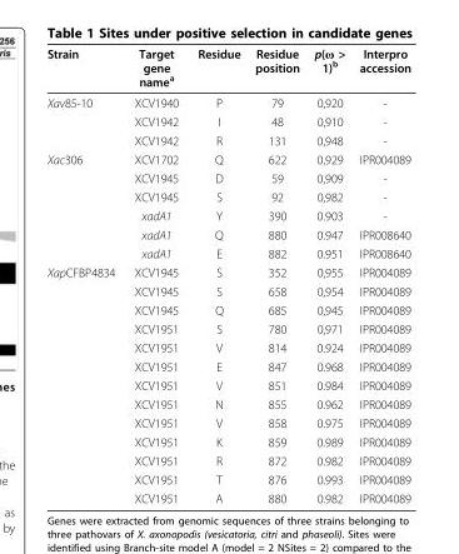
<table><thead><tr><td>Strain</td><td>Target gene name<sup>a</sup></td><td>Residue</td><td>Residue position</td><td>p(ω &gt; 1)<sup>b</sup></td><td>Interpro accession</td></tr></thead><tbody><tr><td rowspan="3">Xav85-10</td><td>XCV1940</td><td>P</td><td>79</td><td>0,920</td><td>-</td></tr><tr><td>XCV1942</td><td>I</td><td>48</td><td>0,910</td><td>-</td></tr><tr><td>XCV1942</td><td>R</td><td>131</td><td>0,948</td><td>-</td></tr><tr><td rowspan="6">Xac306</td><td>XCV1702</td><td>Q</td><td>622</td><td>0,929</td><td>IPR004089</td></tr><tr><td>XCV1945</td><td>D</td><td>59</td><td>0,909</td><td>-</td></tr><tr><td>XCV1945</td><td>S</td><td>92</td><td>0,982</td><td>-</td></tr><tr><td>xadA1</td><td>Y</td><td>390</td><td>0.903</td><td>-</td></tr><tr><td>xadA1</td><td>Q</td><td>880</td><td>0.947</td><td>IPR008640</td></tr><tr><td>xadA1</td><td>E</td><td>882</td><td>0.951</td><td>IPR008640</td></tr><tr><td rowspan="13">XapCFBP4834</td><td>XCV1945</td><td>S</td><td>352</td><td>0,955</td><td>IPR004089</td></tr><tr><td>XCV1945</td><td>S</td><td>658</td><td>0,954</td><td>IPR004089</td></tr><tr><td>XCV1945</td><td>Q</td><td>685</td><td>0,945</td><td>IPR004089</td></tr><tr><td>XCV1951</td><td>S</td><td>780</td><td>0,971</td><td>IPR004089</td></tr><tr><td>XCV1951</td><td>V</td><td>814</td><td>0.924</td><td>IPR004089</td></tr><tr><td>XCV1951</td><td>E</td><td>847</td><td>0.968</td><td>IPR004089</td></tr><tr><td>XCV1951</td><td>V</td><td>851</td><td>0.984</td><td>IPR004089</td></tr><tr><td>XCV1951</td><td>N</td><td>855</td><td>0.962</td><td>IPR004089</td></tr><tr><td>XCV1951</td><td>V</td><td>858</td><td>0.975</td><td>IPR004089</td></tr><tr><td>XCV1951</td><td>K</td><td>859</td><td>0.989</td><td>IPR004089</td></tr><tr><td>XCV1951</td><td>R</td><td>872</td><td>0.982</td><td>IPR004089</td></tr><tr><td>XCV1951</td><td>T</td><td>876</td><td>0.993</td><td>IPR004089</td></tr><tr><td>XCV1951</td><td>A</td><td>880</td><td>0.982</td><td>IPR004089</td></tr></tbody></table>